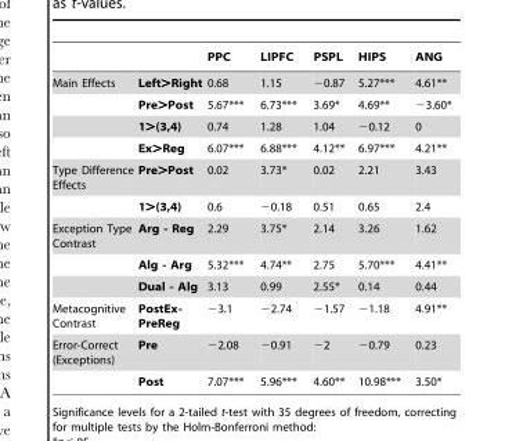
<table><thead><tr><td></td><td></td><td>PPC</td><td>LIPFC</td><td>PSPL</td><td>HIPS</td><td>ANG</td></tr></thead><tbody><tr><td rowspan="4">Main Effects</td><td>Left&gt;Right</td><td>0.68</td><td>1.15</td><td>−0.87</td><td>5.27***</td><td>4.61**</td></tr><tr><td>Pre&gt;Post</td><td>5.67***</td><td>6.73***</td><td>3.69*</td><td>4.69**</td><td>−3.60*</td></tr><tr><td>1&gt;(3,4)</td><td>0.74</td><td>1.28</td><td>1.04</td><td>−0.12</td><td>0</td></tr><tr><td>Ex&gt;Reg</td><td>6.07***</td><td>6.88***</td><td>4.12**</td><td>6.97***</td><td>4.21**</td></tr><tr><td rowspan="2">Type Difference Effects</td><td>Pre&gt;Post</td><td>0.02</td><td>3.73*</td><td>0.02</td><td>2.21</td><td>3.43</td></tr><tr><td>1&gt;(3,4)</td><td>0.6</td><td>−0.18</td><td>0.51</td><td>0.65</td><td>2.4</td></tr><tr><td rowspan="3">Exception Type Contrast</td><td>Arg - Reg</td><td>2.29</td><td>3.75*</td><td>2.14</td><td>3.26</td><td>1.62</td></tr><tr><td>Alg - Arg</td><td>5.32***</td><td>4.74**</td><td>2.75</td><td>5.70***</td><td>4.41**</td></tr><tr><td>Dual - Alg</td><td>3.13</td><td>0.99</td><td>2.55*</td><td>0.14</td><td>0.44</td></tr><tr><td>Metacognitive Contrast</td><td>PostEx- PreReg</td><td>−3.1</td><td>−2.74</td><td>−1.57</td><td>−1.18</td><td>4.91**</td></tr><tr><td rowspan="2">Error-Correct (Exceptions)</td><td>Pre</td><td>−2.08</td><td>−0.91</td><td>−2</td><td>−0.79</td><td>0.23</td></tr><tr><td>Post</td><td>7.07***</td><td>5.96***</td><td>4.60**</td><td>10.98***</td><td>3.50*</td></tr></tbody></table>